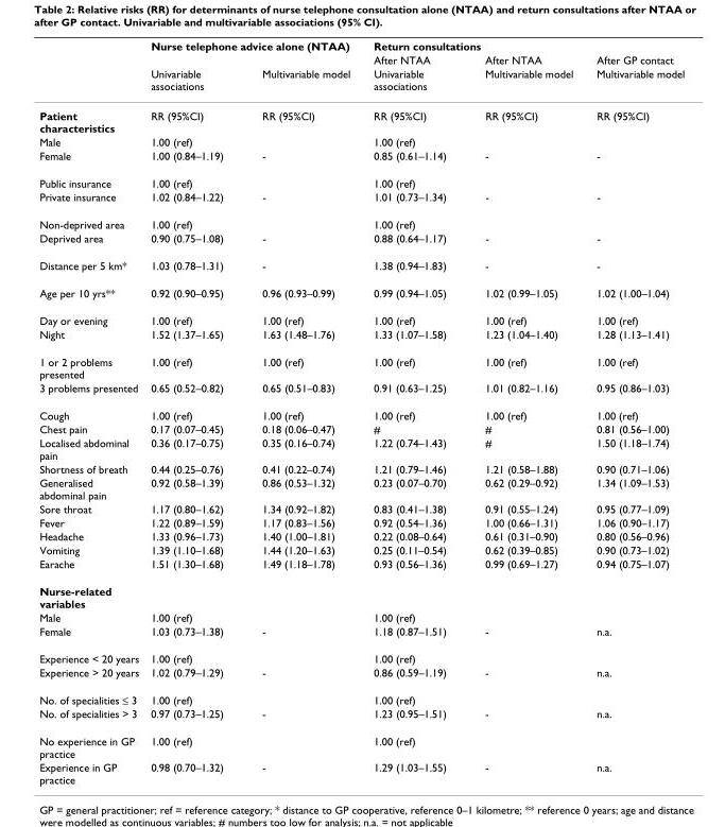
<table><thead><tr><td rowspan="3"></td><td colspan="2">Nurse telephone advice alone (NTAA)</td><td colspan="3">Return consultations</td></tr><tr><td rowspan="2">Univariable associations</td><td rowspan="2">Multivariable model</td><td rowspan="2">After NTAA Univariable associations</td><td rowspan="2">After NTAA Multivariable model</td><td rowspan="2">After GP contact Multivariable model</td></tr><tr></tr></thead><tbody><tr><td>Patient characteristics</td><td>RR (95%CI)</td><td>RR (95%CI)</td><td>RR (95%CI)</td><td>RR (95%CI)</td><td>RR (95%CI)</td></tr><tr><td>Male</td><td>1.00 (ref)</td><td></td><td>1.00 (ref)</td><td></td><td></td></tr><tr><td>Female</td><td>1.00 (0.84–1.19)</td><td>-</td><td>0.85 (0.61–1.14)</td><td>-</td><td>-</td></tr><tr><td>Public insurance</td><td>1.00 (ref)</td><td></td><td>1.00 (ref)</td><td></td><td></td></tr><tr><td>Private insurance</td><td>1.02 (0.84–1.22)</td><td>-</td><td>1.01 (0.73–1.34)</td><td>-</td><td>-</td></tr><tr><td>Non-deprived area</td><td>1.00 (ref)</td><td></td><td>1.00 (ref)</td><td></td><td></td></tr><tr><td>Deprived area</td><td>0.90 (0.75–1.08)</td><td>-</td><td>0.88 (0.64–1.17)</td><td>-</td><td>-</td></tr><tr><td>Distance per 5 km*</td><td>1.03 (0.78–1.31)</td><td>-</td><td>1.38 (0.94–1.83)</td><td>-</td><td>-</td></tr><tr><td>Age per 10 yrs**</td><td>0.92 (0.90–0.95)</td><td>0.96 (0.93–0.99)</td><td>0.99 (0.94–1.05)</td><td>1.02 (0.99–1.05)</td><td>1.02 (1.00–1.04)</td></tr><tr><td>Day or evening</td><td>1.00 (ref)</td><td>1.00 (ref)</td><td>1.00 (ref)</td><td>1.00 (ref)</td><td>1.00 (ref)</td></tr><tr><td>Night</td><td>1.52 (1.37–1.65)</td><td>1.63 (1.48–1.76)</td><td>1.33 (1.07–1.58)</td><td>1.23 (1.04–1.40)</td><td>1.28 (1.13–1.41)</td></tr><tr><td>1 or 2 problems presented</td><td>1.00 (ref)</td><td>1.00 (ref)</td><td>1.00 (ref)</td><td>1.00 (ref)</td><td>1.00 (ref)</td></tr><tr><td>3 problems presented</td><td>0.65 (0.52–0.82)</td><td>0.65 (0.51–0.83)</td><td>0.91 (0.63–1.25)</td><td>1.01 (0.82–1.16)</td><td>0.95 (0.86–1.03)</td></tr><tr><td>Cough</td><td>1.00 (ref)</td><td>1.00 (ref)</td><td>1.00 (ref)</td><td>1.00 (ref)</td><td>1.00 (ref)</td></tr><tr><td>Chest pain</td><td>0.17 (0.07–0.45)</td><td>0.18 (0.06–0.47)</td><td>#</td><td>#</td><td>0.81 (0.56–1.00)</td></tr><tr><td>Localised abdominal pain</td><td>0.36 (0.17–0.75)</td><td>0.35 (0.16–0.74)</td><td>1.22 (0.74–1.43)</td><td>#</td><td>1.50 (1.18–1.74)</td></tr><tr><td>Shortness of breath</td><td>0.44 (0.25–0.76)</td><td>0.41 (0.22–0.74)</td><td>1.21 (0.79–1.46)</td><td>1.21 (0.58–1.88)</td><td>0.90 (0.71–1.06)</td></tr><tr><td>Generalised abdominal pain</td><td>0.92 (0.58–1.39)</td><td>0.86 (0.53–1.32)</td><td>0.23 (0.07–0.70)</td><td>0.62 (0.29–0.92)</td><td>1.34 (1.09–1.53)</td></tr><tr><td>Sore throat</td><td>1.17 (0.80–1.62)</td><td>1.34 (0.92–1.82)</td><td>0.83 (0.41–1.38)</td><td>0.91 (0.55–1.24)</td><td>0.95 (0.77–1.09)</td></tr><tr><td>Fever</td><td>1.22 (0.89–1.59)</td><td>1.17 (0.83–1.56)</td><td>0.92 (0.54–1.36)</td><td>1.00 (0.66–1.31)</td><td>1.06 (0.90–1.17)</td></tr><tr><td>Headache</td><td>1.33 (0.96–1.73)</td><td>1.40 (1.00–1.81)</td><td>0.22 (0.08–0.64)</td><td>0.61 (0.31–0.90)</td><td>0.80 (0.56–0.96)</td></tr><tr><td>Vomiting</td><td>1.39 (1.10–1.68)</td><td>1.44 (1.20–1.63)</td><td>0.25 (0.11–0.54)</td><td>0.62 (0.39–0.85)</td><td>0.90 (0.73–1.02)</td></tr><tr><td>Earache</td><td>1.51 (1.30–1.68)</td><td>1.49 (1.18–1.78)</td><td>0.93 (0.56–1.36)</td><td>0.99 (0.69–1.27)</td><td>0.94 (0.75–1.07)</td></tr><tr><td colspan="6">Nurse-related variables</td></tr><tr><td>Male</td><td>1.00 (ref)</td><td></td><td>1.00 (ref)</td><td></td><td></td></tr><tr><td>Female</td><td>1.03 (0.73–1.38)</td><td>-</td><td>1.18 (0.87–1.51)</td><td>-</td><td>n.a.</td></tr><tr><td>Experience &lt; 20 years</td><td>1.00 (ref)</td><td></td><td>1.00 (ref)</td><td></td><td></td></tr><tr><td>Experience &gt; 20 years</td><td>1.02 (0.79–1.29)</td><td>-</td><td>0.86 (0.59–1.19)</td><td>-</td><td>n.a.</td></tr><tr><td>No. of specialities ≤ 3</td><td>1.00 (ref)</td><td></td><td>1.00 (ref)</td><td></td><td></td></tr><tr><td>No. of specialities &gt; 3</td><td>0.97 (0.73–1.25)</td><td>-</td><td>1.23 (0.95–1.51)</td><td>-</td><td>n.a.</td></tr><tr><td>No experience in GP practice</td><td>1.00 (ref)</td><td></td><td>1.00 (ref)</td><td></td><td></td></tr><tr><td>Experience in GP practice</td><td>0.98 (0.70–1.32)</td><td>-</td><td>1.29 (1.03–1.55)</td><td>-</td><td>n.a.</td></tr></tbody></table>